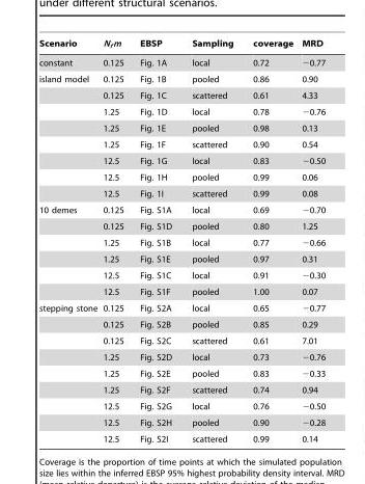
<table><thead><tr><td>Scenario</td><td>N<sub>f</sub>m</td><td>EBSP</td><td>Sampling</td><td>coverage</td><td>MRD</td></tr></thead><tbody><tr><td>constant</td><td>0.125</td><td>Fig. 1A</td><td>local</td><td>0.72</td><td>−0.77</td></tr><tr><td rowspan="8">island model</td><td>0.125</td><td>Fig. 1B</td><td>pooled</td><td>0.86</td><td>0.90</td></tr><tr><td>0.125</td><td>Fig. 1C</td><td>scattered</td><td>0.61</td><td>4.33</td></tr><tr><td>1.25</td><td>Fig. 1D</td><td>local</td><td>0.78</td><td>−0.76</td></tr><tr><td>1.25</td><td>Fig. 1E</td><td>pooled</td><td>0.98</td><td>0.13</td></tr><tr><td>1.25</td><td>Fig. 1F</td><td>scattered</td><td>0.90</td><td>0.54</td></tr><tr><td>12.5</td><td>Fig. 1G</td><td>local</td><td>0.83</td><td>−0.50</td></tr><tr><td>12.5</td><td>Fig. 1H</td><td>pooled</td><td>0.99</td><td>0.06</td></tr><tr><td>12.5</td><td>Fig. 1I</td><td>scattered</td><td>0.99</td><td>0.08</td></tr><tr><td rowspan="6">10 demes</td><td>0.125</td><td>Fig. S1A</td><td>local</td><td>0.69</td><td>−0.70</td></tr><tr><td>0.125</td><td>Fig. S1D</td><td>pooled</td><td>0.80</td><td>1.25</td></tr><tr><td>1.25</td><td>Fig. S1B</td><td>local</td><td>0.77</td><td>−0.66</td></tr><tr><td>1.25</td><td>Fig. S1E</td><td>pooled</td><td>0.97</td><td>0.31</td></tr><tr><td>12.5</td><td>Fig. S1C</td><td>local</td><td>0.91</td><td>−0.30</td></tr><tr><td>12.5</td><td>Fig. S1F</td><td>pooled</td><td>1.00</td><td>0.07</td></tr><tr><td rowspan="9">stepping stone</td><td>0.125</td><td>Fig. S2A</td><td>local</td><td>0.65</td><td>−0.77</td></tr><tr><td>0.125</td><td>Fig. S2B</td><td>pooled</td><td>0.85</td><td>0.29</td></tr><tr><td>0.125</td><td>Fig. S2C</td><td>scattered</td><td>0.61</td><td>7.01</td></tr><tr><td>1.25</td><td>Fig. S2D</td><td>local</td><td>0.73</td><td>−0.76</td></tr><tr><td>1.25</td><td>Fig. S2E</td><td>pooled</td><td>0.83</td><td>−0.33</td></tr><tr><td>1.25</td><td>Fig. S2F</td><td>scattered</td><td>0.74</td><td>0.94</td></tr><tr><td>12.5</td><td>Fig. S2G</td><td>local</td><td>0.76</td><td>−0.50</td></tr><tr><td>12.5</td><td>Fig. S2H</td><td>pooled</td><td>0.90</td><td>−0.28</td></tr><tr><td>12.5</td><td>Fig. S2I</td><td>scattered</td><td>0.99</td><td>0.14</td></tr></tbody></table>